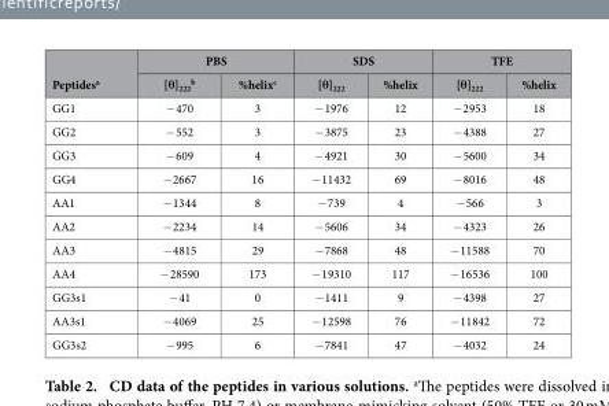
<table><thead><tr><td rowspan="2">Peptides<sup>a</sup></td><td colspan="2">PBS</td><td colspan="2">SDS</td><td colspan="2">TFE</td></tr><tr><td>[θ]<sub>222</sub> <sup>b</sup></td><td>%helix<sup>c</sup></td><td>[θ]<sub>222</sub></td><td>%helix</td><td>[θ]<sub>222</sub></td><td>%helix</td></tr></thead><tbody><tr><td>GG1</td><td>− 470</td><td>3</td><td>− 1976</td><td>12</td><td>− 2953</td><td>18</td></tr><tr><td>GG2</td><td>− 552</td><td>3</td><td>− 3875</td><td>23</td><td>− 4388</td><td>27</td></tr><tr><td>GG3</td><td>− 609</td><td>4</td><td>− 4921</td><td>30</td><td>− 5600</td><td>34</td></tr><tr><td>GG4</td><td>− 2667</td><td>16</td><td>− 11432</td><td>69</td><td>− 8016</td><td>48</td></tr><tr><td>AA1</td><td>− 1344</td><td>8</td><td>− 739</td><td>4</td><td>− 566</td><td>3</td></tr><tr><td>AA2</td><td>− 2234</td><td>14</td><td>− 5606</td><td>34</td><td>− 4323</td><td>26</td></tr><tr><td>AA3</td><td>− 4815</td><td>29</td><td>− 7868</td><td>48</td><td>− 11588</td><td>70</td></tr><tr><td>AA4</td><td>− 28590</td><td>173</td><td>− 19310</td><td>117</td><td>− 16536</td><td>100</td></tr><tr><td>GG3s1</td><td>− 41</td><td>0</td><td>− 1411</td><td>9</td><td>− 4398</td><td>27</td></tr><tr><td>AA3s1</td><td>− 4069</td><td>25</td><td>− 12598</td><td>76</td><td>− 11842</td><td>72</td></tr><tr><td>GG3s2</td><td>− 995</td><td>6</td><td>− 7841</td><td>47</td><td>− 4032</td><td>24</td></tr></tbody></table>